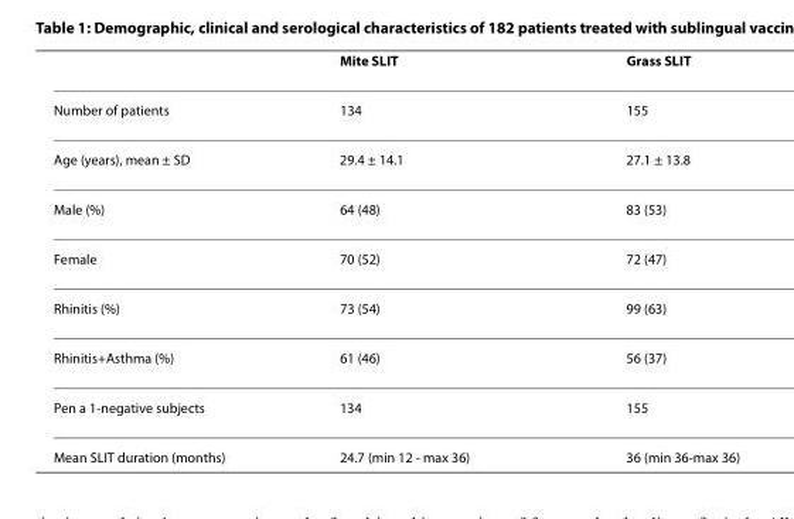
<table><thead><tr><td></td><td>Mite SLIT</td><td>Grass SLIT</td></tr></thead><tbody><tr><td>Number of patients</td><td>134</td><td>155</td></tr><tr><td>Age (years), mean ± SD</td><td>29.4 ± 14.1</td><td>27.1 ± 13.8</td></tr><tr><td>Male (%)</td><td>64 (48)</td><td>83 (53)</td></tr><tr><td>Female</td><td>70 (52)</td><td>72 (47)</td></tr><tr><td>Rhinitis (%)</td><td>73 (54)</td><td>99 (63)</td></tr><tr><td>Rhinitis+Asthma (%)</td><td>61 (46)</td><td>56 (37)</td></tr><tr><td>Pen a 1-negative subjects</td><td>134</td><td>155</td></tr><tr><td>Mean SLIT duration (months)</td><td>24.7 (min 12 - max 36)</td><td>36 (min 36-max 36)</td></tr></tbody></table>